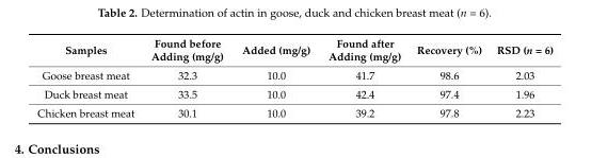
<table><thead><tr><td>Samples</td><td>Found before Adding (mg/g)</td><td>Added (mg/g)</td><td>Found after Adding (mg/g)</td><td>Recovery (%)</td><td>RSD (n = 6)</td></tr></thead><tbody><tr><td>Goose breast meat</td><td>32.3</td><td>10.0</td><td>41.7</td><td>98.6</td><td>2.03</td></tr><tr><td>Duck breast meat</td><td>33.5</td><td>10.0</td><td>42.4</td><td>97.4</td><td>1.96</td></tr><tr><td>Chicken breast meat</td><td>30.1</td><td>10.0</td><td>39.2</td><td>97.8</td><td>2.23</td></tr></tbody></table>